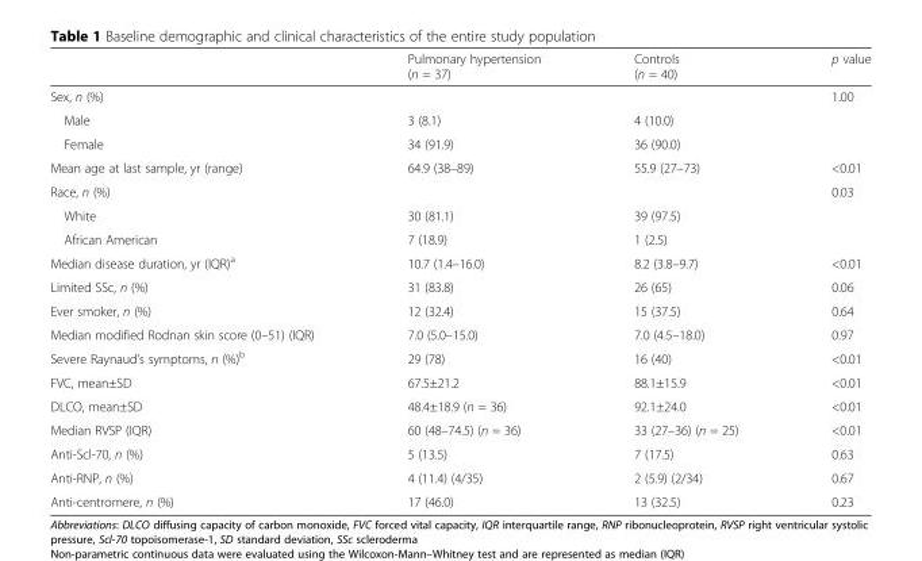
<table><thead><tr><td></td><td>Pulmonary hypertension (n = 37)</td><td>Controls (n = 40)</td><td>p value</td></tr></thead><tbody><tr><td colspan="3">Sex, n (%)</td><td rowspan="3">1.00</td></tr><tr><td>Male</td><td>3 (8.1)</td><td>4 (10.0)</td></tr><tr><td>Female</td><td>34 (91.9)</td><td>36 (90.0)</td></tr><tr><td>Mean age at last sample, yr (range)</td><td>64.9 (38–89)</td><td>55.9 (27–73)</td><td>&lt;0.01</td></tr><tr><td colspan="3">Race, n (%)</td><td rowspan="3">0.03</td></tr><tr><td>White</td><td>30 (81.1)</td><td>39 (97.5)</td></tr><tr><td>African American</td><td>7 (18.9)</td><td>1 (2.5)</td></tr><tr><td>Median disease duration, yr (IQR)<sup>a</sup></td><td>10.7 (1.4–16.0)</td><td>8.2 (3.8–9.7)</td><td>&lt;0.01</td></tr><tr><td>Limited SSc, n (%)</td><td>31 (83.8)</td><td>26 (65)</td><td>0.06</td></tr><tr><td>Ever smoker, n (%)</td><td>12 (32.4)</td><td>15 (37.5)</td><td>0.64</td></tr><tr><td>Median modified Rodnan skin score (0–51) (IQR)</td><td>7.0 (5.0–15.0)</td><td>7.0 (4.5–18.0)</td><td>0.97</td></tr><tr><td>Severe Raynaud’s symptoms, n (%)<sup>b</sup></td><td>29 (78)</td><td>16 (40)</td><td>&lt;0.01</td></tr><tr><td>FVC, mean±SD</td><td>67.5±21.2</td><td>88.1±15.9</td><td>&lt;0.01</td></tr><tr><td>DLCO, mean±SD</td><td>48.4±18.9 (n = 36)</td><td>92.1±24.0</td><td>&lt;0.01</td></tr><tr><td>Median RVSP (IQR)</td><td>60 (48–74.5) (n = 36)</td><td>33 (27–36) (n = 25)</td><td>&lt;0.01</td></tr><tr><td>Anti-Scl-70, n (%)</td><td>5 (13.5)</td><td>7 (17.5)</td><td>0.63</td></tr><tr><td>Anti-RNP, n (%)</td><td>4 (11.4) (4/35)</td><td>2 (5.9) (2/34)</td><td>0.67</td></tr><tr><td>Anti-centromere, n (%)</td><td>17 (46.0)</td><td>13 (32.5)</td><td>0.23</td></tr></tbody></table>